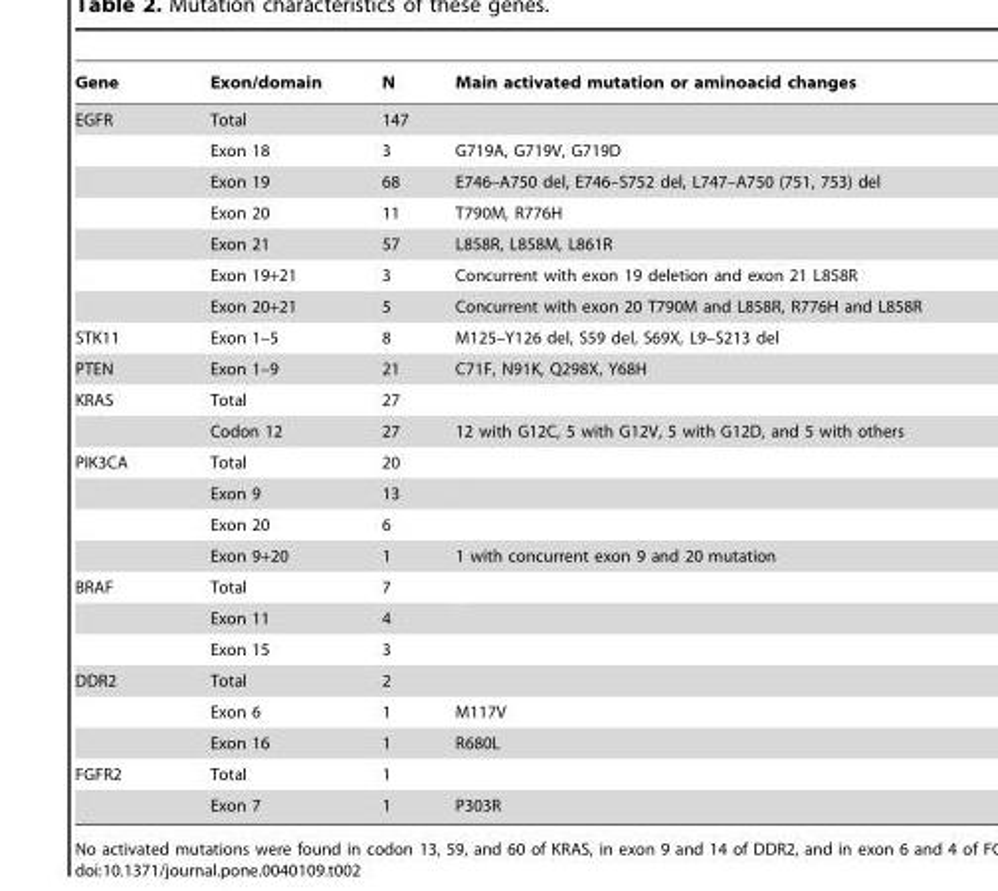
<table><thead><tr><td>Gene</td><td>Exon/domain</td><td>N</td><td>Main activated mutation or aminoacid changes</td></tr></thead><tbody><tr><td rowspan="7">EGFR</td><td>Total</td><td>147</td><td></td></tr><tr><td>Exon 18</td><td>3</td><td>G719A, G719V, G719D</td></tr><tr><td>Exon 19</td><td>68</td><td>E746–A750 del, E746–S752 del, L747–A750 (751, 753) del</td></tr><tr><td>Exon 20</td><td>11</td><td>T790M, R776H</td></tr><tr><td>Exon 21</td><td>57</td><td>L858R, L858M, L861R</td></tr><tr><td>Exon 19+21</td><td>3</td><td>Concurrent with exon 19 deletion and exon 21 L858R</td></tr><tr><td>Exon 20+21</td><td>5</td><td>Concurrent with exon 20 T790M and L858R, R776H and L858R</td></tr><tr><td>STK11</td><td>Exon 1–5</td><td>8</td><td>M125–Y126 del, S59 del, S69X, L9–S213 del</td></tr><tr><td>PTEN</td><td>Exon 1–9</td><td>21</td><td>C71F, N91K, Q298X, Y68H</td></tr><tr><td rowspan="2">KRAS</td><td>Total</td><td>27</td><td></td></tr><tr><td>Codon 12</td><td>27</td><td>12 with G12C, 5 with G12V, 5 with G12D, and 5 with others</td></tr><tr><td rowspan="4">PIK3CA</td><td>Total</td><td>20</td><td></td></tr><tr><td>Exon 9</td><td>13</td><td></td></tr><tr><td>Exon 20</td><td>6</td><td></td></tr><tr><td>Exon 9+20</td><td>1</td><td>1 with concurrent exon 9 and 20 mutation</td></tr><tr><td rowspan="3">BRAF</td><td>Total</td><td>7</td><td></td></tr><tr><td>Exon 11</td><td>4</td><td></td></tr><tr><td>Exon 15</td><td>3</td><td></td></tr><tr><td rowspan="3">DDR2</td><td>Total</td><td>2</td><td></td></tr><tr><td>Exon 6</td><td>1</td><td>M117V</td></tr><tr><td>Exon 16</td><td>1</td><td>R680L</td></tr><tr><td rowspan="2">FGFR2</td><td>Total</td><td>1</td><td></td></tr><tr><td>Exon 7</td><td>1</td><td>P303R</td></tr></tbody></table>